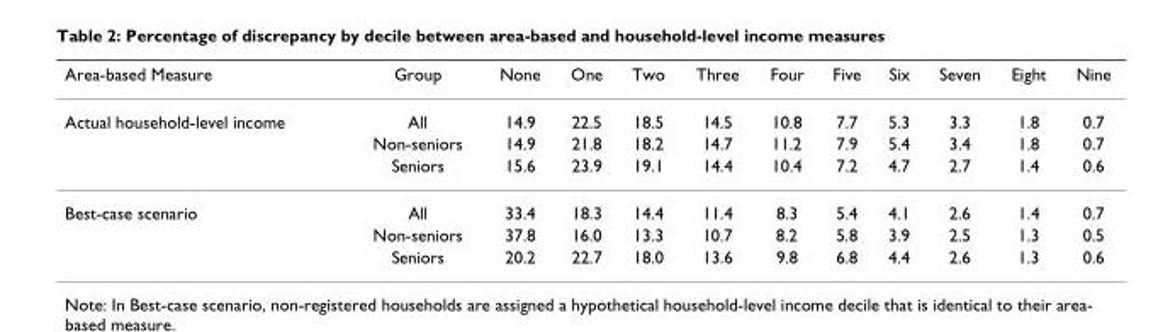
<table><thead><tr><td>Area-based Measure</td><td>Group</td><td>None</td><td>One</td><td>Two</td><td>Three</td><td>Four</td><td>Five</td><td>Six</td><td>Seven</td><td>Eight</td><td>Nine</td></tr></thead><tbody><tr><td rowspan="3">Actual household-level income</td><td>All</td><td>14.9</td><td>22.5</td><td>18.5</td><td>14.5</td><td>10.8</td><td>7.7</td><td>5.3</td><td>3.3</td><td>1.8</td><td>0.7</td></tr><tr><td>Non-seniors</td><td>14.9</td><td>21.8</td><td>18.2</td><td>14.7</td><td>11.2</td><td>7.9</td><td>5.4</td><td>3.4</td><td>1.8</td><td>0.7</td></tr><tr><td>Seniors</td><td>15.6</td><td>23.9</td><td>19.1</td><td>14.4</td><td>10.4</td><td>7.2</td><td>4.7</td><td>2.7</td><td>1.4</td><td>0.6</td></tr><tr><td rowspan="3">Best-case scenario</td><td>All</td><td>33.4</td><td>18.3</td><td>14.4</td><td>11.4</td><td>8.3</td><td>5.4</td><td>4.1</td><td>2.6</td><td>1.4</td><td>0.7</td></tr><tr><td>Non-seniors</td><td>37.8</td><td>16.0</td><td>13.3</td><td>10.7</td><td>8.2</td><td>5.8</td><td>3.9</td><td>2.5</td><td>1.3</td><td>0.5</td></tr><tr><td>Seniors</td><td>20.2</td><td>22.7</td><td>18.0</td><td>13.6</td><td>9.8</td><td>6.8</td><td>4.4</td><td>2.6</td><td>1.3</td><td>0.6</td></tr></tbody></table>